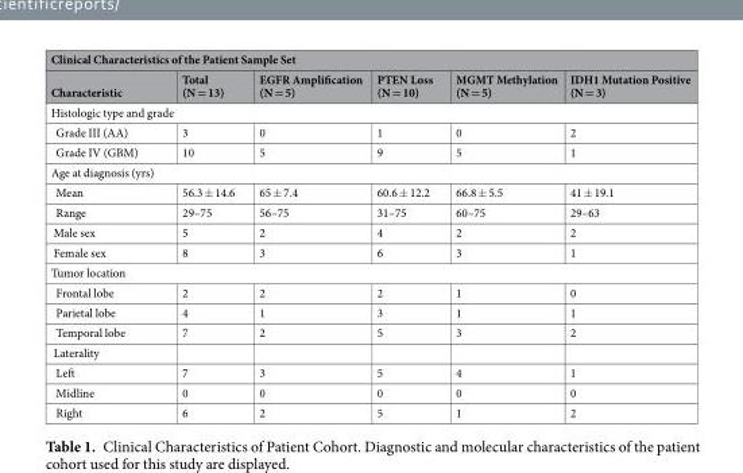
<table><thead><tr><td colspan="6">Clinical Characteristics of the Patient Sample Set</td></tr><tr><td>Characteristic</td><td>Total (N = 13)</td><td>EGFR Amplification (N = 5)</td><td>PTEN Loss (N = 10)</td><td>MGMT Methylation (N = 5)</td><td>IDH1 Mutation Positive (N = 3)</td></tr></thead><tbody><tr><td colspan="6">Histologic type and grade</td></tr><tr><td>Grade III (AA)</td><td>3</td><td>0</td><td>1</td><td>0</td><td>2</td></tr><tr><td>Grade IV (GBM)</td><td>10</td><td>5</td><td>9</td><td>5</td><td>1</td></tr><tr><td colspan="6">Age at diagnosis (yrs)</td></tr><tr><td>Mean</td><td>56.3 ± 14.6</td><td>65 ± 7.4</td><td>60.6 ± 12.2</td><td>66.8 ± 5.5</td><td>41 ± 19.1</td></tr><tr><td>Range</td><td>29–75</td><td>56–75</td><td>31–75</td><td>60–75</td><td>29–63</td></tr><tr><td>Male sex</td><td>5</td><td>2</td><td>4</td><td>2</td><td>2</td></tr><tr><td>Female sex</td><td>8</td><td>3</td><td>6</td><td>3</td><td>1</td></tr><tr><td colspan="6">Tumor location</td></tr><tr><td>Frontal lobe</td><td>2</td><td>2</td><td>2</td><td>1</td><td>0</td></tr><tr><td>Parietal lobe</td><td>4</td><td>1</td><td>3</td><td>1</td><td>1</td></tr><tr><td>Temporal lobe</td><td>7</td><td>2</td><td>5</td><td>3</td><td>2</td></tr><tr><td colspan="6">Laterality</td></tr><tr><td>Left</td><td>7</td><td>3</td><td>5</td><td>4</td><td>1</td></tr><tr><td>Midline</td><td>0</td><td>0</td><td>0</td><td>0</td><td>0</td></tr><tr><td>Right</td><td>6</td><td>2</td><td>5</td><td>1</td><td>2</td></tr></tbody></table>